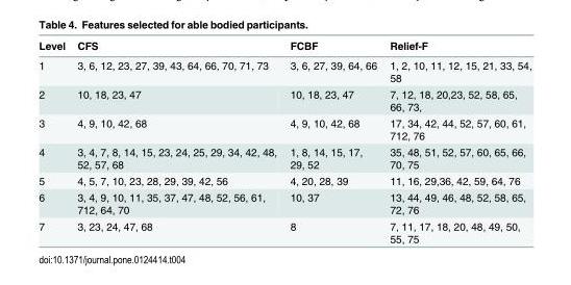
<table><thead><tr><td>Level</td><td>CFS</td><td>FCBF</td><td>Relief-F</td></tr></thead><tbody><tr><td>1</td><td>3, 6, 12, 23, 27, 39, 43, 64, 66, 70, 71, 73</td><td>3, 6, 27, 39, 64, 66</td><td>1, 2, 10, 11, 12, 15, 21, 33, 54, 58</td></tr><tr><td>2</td><td>10, 18, 23, 47</td><td>10, 18, 23, 47</td><td>7, 12, 18, 20,23, 52, 58, 65, 66, 73,</td></tr><tr><td>3</td><td>4, 9, 10, 42, 68</td><td>4, 9, 10, 42, 68</td><td>17, 34, 42, 44, 52, 57, 60, 61, 712, 76</td></tr><tr><td>4</td><td>3, 4, 7, 8, 14, 15, 23, 24, 25, 29, 34, 42, 48, 52, 57, 68</td><td>1, 8, 14, 15, 17, 29, 52</td><td>35, 48, 51, 52, 57, 60, 65, 66, 70, 75</td></tr><tr><td>5</td><td>4, 5, 7, 10, 23, 28, 29, 39, 42, 56</td><td>4, 20, 28, 39</td><td>11, 16, 29,36, 42, 59, 64, 76</td></tr><tr><td>6</td><td>3, 4, 9, 10, 11, 35, 37, 47, 48, 52, 56, 61, 712, 64, 70</td><td>10, 37</td><td>13, 44, 49, 46, 48, 52, 58, 65, 72, 76</td></tr><tr><td>7</td><td>3, 23, 24, 47, 68</td><td>8</td><td>7, 11, 17, 18, 20, 48, 49, 50, 55, 75</td></tr></tbody></table>